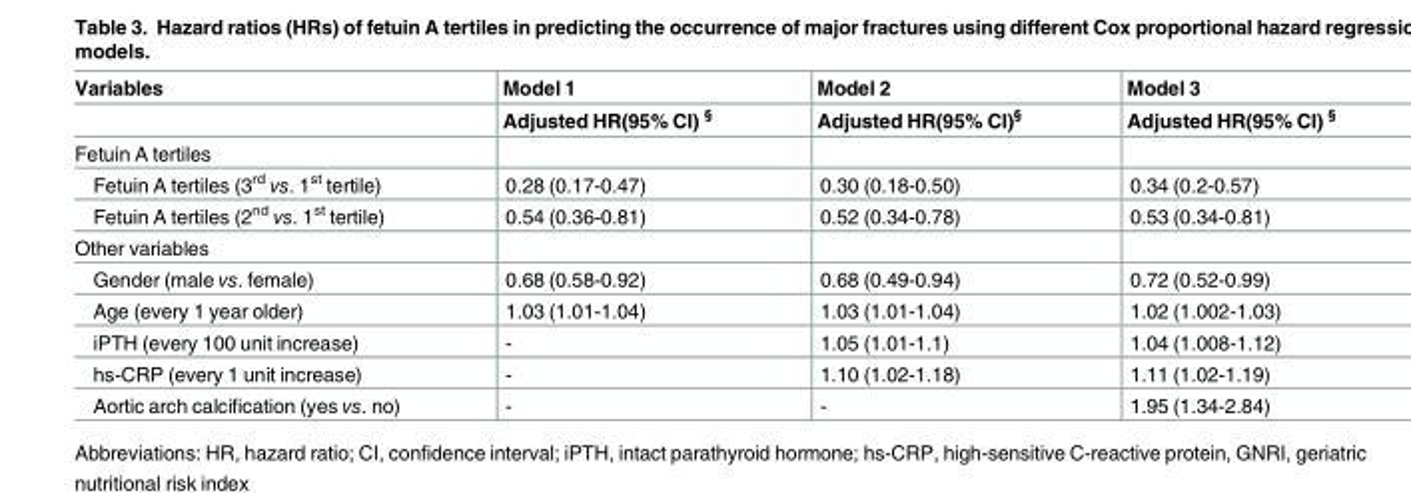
<table><thead><tr><td rowspan="2">Variables</td><td rowspan="2">Model 1 Adjusted HR(95% CI) <sup>§</sup></td><td rowspan="2">Model 2 Adjusted HR(95% CI)<sup>§</sup></td><td rowspan="2">Model 3 Adjusted HR(95% CI) <sup>§</sup></td></tr><tr></tr></thead><tbody><tr><td colspan="4">Fetuin A tertiles</td></tr><tr><td>Fetuin A tertiles (3<sup>rd</sup> vs. 1<sup>st</sup> tertile)</td><td>0.28 (0.17-0.47)</td><td>0.30 (0.18-0.50)</td><td>0.34 (0.2-0.57)</td></tr><tr><td>Fetuin A tertiles (2<sup>nd</sup> vs. 1<sup>st</sup> tertile)</td><td>0.54 (0.36-0.81)</td><td>0.52 (0.34-0.78)</td><td>0.53 (0.34-0.81)</td></tr><tr><td colspan="4">Other variables</td></tr><tr><td>Gender (male vs. female)</td><td>0.68 (0.58-0.92)</td><td>0.68 (0.49-0.94)</td><td>0.72 (0.52-0.99)</td></tr><tr><td>Age (every 1 year older)</td><td>1.03 (1.01-1.04)</td><td>1.03 (1.01-1.04)</td><td>1.02 (1.002-1.03)</td></tr><tr><td>iPTH (every 100 unit increase)</td><td>-</td><td>1.05 (1.01-1.1)</td><td>1.04 (1.008-1.12)</td></tr><tr><td>hs-CRP (every 1 unit increase)</td><td>-</td><td>1.10 (1.02-1.18)</td><td>1.11 (1.02-1.19)</td></tr><tr><td>Aortic arch calcification (yes vs. no)</td><td>-</td><td>-</td><td>1.95 (1.34-2.84)</td></tr></tbody></table>